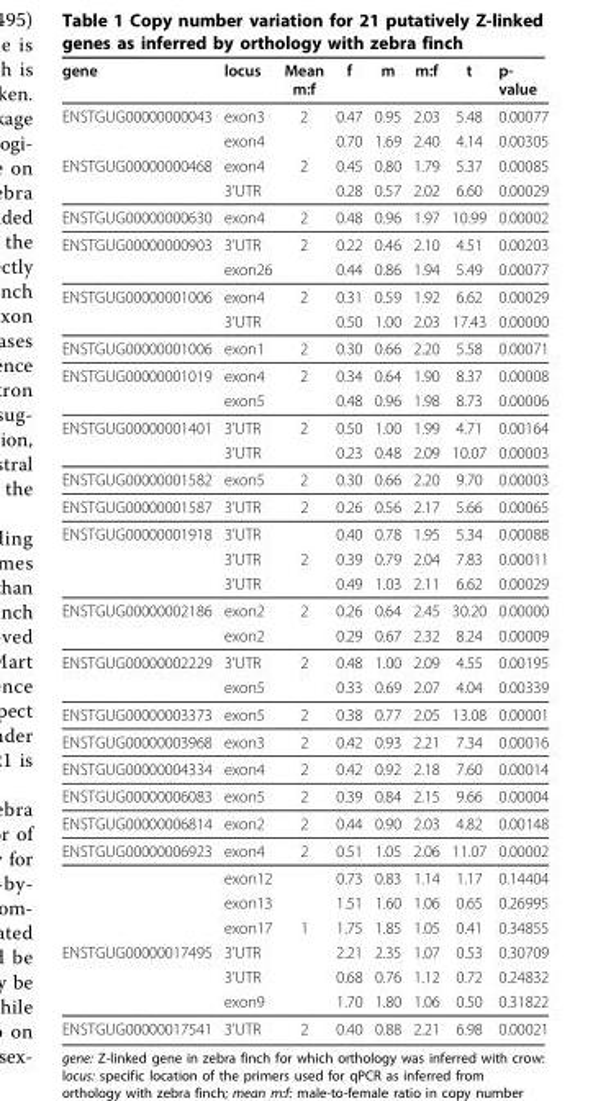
<table><thead><tr><td>gene</td><td>locus</td><td>Mean m:f</td><td>f</td><td>m</td><td>m:f</td><td>t</td><td>p- value</td></tr></thead><tbody><tr><td rowspan="2">ENSTGUG00000000043</td><td>exon3</td><td>2</td><td>0.47</td><td>0.95</td><td>2.03</td><td>5.48</td><td>0.00077</td></tr><tr><td>exon4</td><td></td><td>0.70</td><td>1.69</td><td>2.40</td><td>4.14</td><td>0.00305</td></tr><tr><td rowspan="2">ENSTGUG00000000468</td><td>exon4</td><td>2</td><td>0.45</td><td>0.80</td><td>1.79</td><td>5.37</td><td>0.00085</td></tr><tr><td>3’UTR</td><td></td><td>0.28</td><td>0.57</td><td>2.02</td><td>6.60</td><td>0.00029</td></tr><tr><td>ENSTGUG00000000630</td><td>exon4</td><td>2</td><td>0.48</td><td>0.96</td><td>1.97</td><td>10.99</td><td>0.00002</td></tr><tr><td rowspan="2">ENSTGUG00000000903</td><td>3’UTR</td><td>2</td><td>0.22</td><td>0.46</td><td>2.10</td><td>4.51</td><td>0.00203</td></tr><tr><td>exon26</td><td></td><td>0.44</td><td>0.86</td><td>1.94</td><td>5.49</td><td>0.00077</td></tr><tr><td rowspan="2">ENSTGUG00000001006</td><td>exon4</td><td>2</td><td>0.31</td><td>0.59</td><td>1.92</td><td>6.62</td><td>0.00029</td></tr><tr><td>3’UTR</td><td></td><td>0.50</td><td>1.00</td><td>2.03</td><td>17.43</td><td>0.00000</td></tr><tr><td>ENSTGUG00000001006</td><td>exon1</td><td>2</td><td>0.30</td><td>0.66</td><td>2.20</td><td>5.58</td><td>0.00071</td></tr><tr><td rowspan="2">ENSTGUG00000001019</td><td>exon4</td><td>2</td><td>0.34</td><td>0.64</td><td>1.90</td><td>8.37</td><td>0.00008</td></tr><tr><td>exon5</td><td></td><td>0.48</td><td>0.96</td><td>1.98</td><td>8.73</td><td>0.00006</td></tr><tr><td rowspan="2">ENSTGUG00000001401</td><td>3’UTR</td><td>2</td><td>0.50</td><td>1.00</td><td>1.99</td><td>4.71</td><td>0.00164</td></tr><tr><td>3’UTR</td><td></td><td>0.23</td><td>0.48</td><td>2.09</td><td>10.07</td><td>0.00003</td></tr><tr><td>ENSTGUG00000001582</td><td>exon5</td><td>2</td><td>0.30</td><td>0.66</td><td>2.20</td><td>9.70</td><td>0.00003</td></tr><tr><td>ENSTGUG00000001587</td><td>3’UTR</td><td>2</td><td>0.26</td><td>0.56</td><td>2.17</td><td>5.66</td><td>0.00065</td></tr><tr><td rowspan="3">ENSTGUG00000001918</td><td>3’UTR</td><td></td><td>0.40</td><td>0.78</td><td>1.95</td><td>5.34</td><td>0.00088</td></tr><tr><td>3’UTR</td><td>2</td><td>0.39</td><td>0.79</td><td>2.04</td><td>7.83</td><td>0.00011</td></tr><tr><td>3’UTR</td><td></td><td>0.49</td><td>1.03</td><td>2.11</td><td>6.62</td><td>0.00029</td></tr><tr><td rowspan="2">ENSTGUG00000002186</td><td>exon2</td><td>2</td><td>0.26</td><td>0.64</td><td>2.45</td><td>30.20</td><td>0.00000</td></tr><tr><td>exon2</td><td></td><td>0.29</td><td>0.67</td><td>2.32</td><td>8.24</td><td>0.00009</td></tr><tr><td rowspan="2">ENSTGUG00000002229</td><td>3’UTR</td><td>2</td><td>0.48</td><td>1.00</td><td>2.09</td><td>4.55</td><td>0.00195</td></tr><tr><td>exon5</td><td></td><td>0.33</td><td>0.69</td><td>2.07</td><td>4.04</td><td>0.00339</td></tr><tr><td>ENSTGUG00000003373</td><td>exon5</td><td>2</td><td>0.38</td><td>0.77</td><td>2.05</td><td>13.08</td><td>0.00001</td></tr><tr><td>ENSTGUG00000003968</td><td>exon3</td><td>2</td><td>0.42</td><td>0.93</td><td>2.21</td><td>7.34</td><td>0.00016</td></tr><tr><td>ENSTGUG00000004334</td><td>exon4</td><td>2</td><td>0.42</td><td>0.92</td><td>2.18</td><td>7.60</td><td>0.00014</td></tr><tr><td>ENSTGUG00000006083</td><td>exon5</td><td>2</td><td>0.39</td><td>0.84</td><td>2.15</td><td>9.66</td><td>0.00004</td></tr><tr><td>ENSTGUG00000006814</td><td>exon2</td><td>2</td><td>0.44</td><td>0.90</td><td>2.03</td><td>4.82</td><td>0.00148</td></tr><tr><td rowspan="4">ENSTGUG00000006923</td><td>exon4</td><td>2</td><td>0.51</td><td>1.05</td><td>2.06</td><td>11.07</td><td>0.00002</td></tr><tr><td>exon12</td><td></td><td>0.73</td><td>0.83</td><td>1.14</td><td>1.17</td><td>0.14404</td></tr><tr><td>exon13</td><td></td><td>1.51</td><td>1.60</td><td>1.06</td><td>0.65</td><td>0.26995</td></tr><tr><td>exon17</td><td>1</td><td>1.75</td><td>1.85</td><td>1.05</td><td>0.41</td><td>0.34855</td></tr><tr><td rowspan="3">ENSTGUG00000017495</td><td>3’UTR</td><td></td><td>2.21</td><td>2.35</td><td>1.07</td><td>0.53</td><td>0.30709</td></tr><tr><td>3’UTR</td><td></td><td>0.68</td><td>0.76</td><td>1.12</td><td>0.72</td><td>0.24832</td></tr><tr><td>exon9</td><td></td><td>1.70</td><td>1.80</td><td>1.06</td><td>0.50</td><td>0.31822</td></tr><tr><td>ENSTGUG00000017541</td><td>3’UTR</td><td>2</td><td>0.40</td><td>0.88</td><td>2.21</td><td>6.98</td><td>0.00021</td></tr></tbody></table>